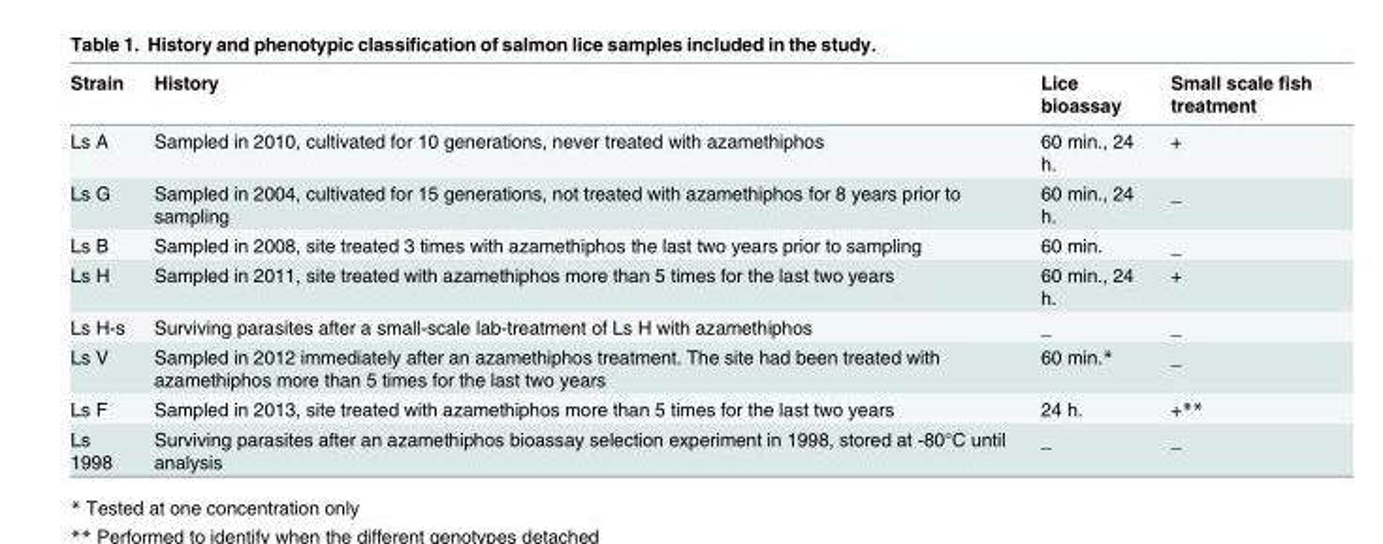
<table><thead><tr><td>Strain</td><td>History</td><td>Lice bioassay</td><td>Small scale fish treatment</td></tr></thead><tbody><tr><td>Ls A</td><td>Sampled in 2010, cultivated for 10 generations, never treated with azamethiphos</td><td>60 min., 24 h.</td><td>+</td></tr><tr><td>Ls G</td><td>Sampled in 2004, cultivated for 15 generations, not treated with azamethiphos for 8 years prior to sampling</td><td>60 min., 24 h.</td><td>_</td></tr><tr><td>Ls B</td><td>Sampled in 2008, site treated 3 times with azamethiphos the last two years prior to sampling</td><td>60 min.</td><td>_</td></tr><tr><td>Ls H</td><td>Sampled in 2011, site treated with azamethiphos more than 5 times for the last two years</td><td>60 min., 24 h.</td><td>+</td></tr><tr><td>Ls H-s</td><td>Surviving parasites after a small-scale lab-treatment of Ls H with azamethiphos</td><td>_</td><td>_</td></tr><tr><td>Ls V</td><td>Sampled in 2012 immediately after an azamethiphos treatment. The site had been treated with azamethiphos more than 5 times for the last two years</td><td>60 min.*</td><td>_</td></tr><tr><td>Ls F</td><td>Sampled in 2013, site treated with azamethiphos more than 5 times for the last two years</td><td>24 h.</td><td>+**</td></tr><tr><td>Ls 1998</td><td>Surviving parasites after an azamethiphos bioassay selection experiment in 1998, stored at -80°C until analysis</td><td>_</td><td>_</td></tr></tbody></table>